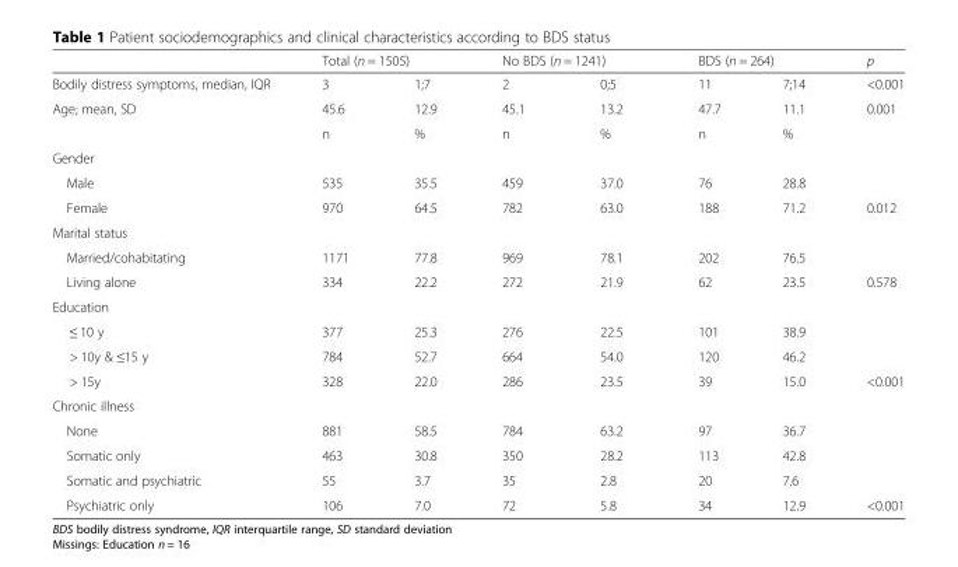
<table><thead><tr><td rowspan="2">Bodily distress symptoms, median, IQR</td><td colspan="2">Total (n = 1505)</td><td colspan="2">No BDS (n = 1241)</td><td colspan="2">BDS (n = 264)</td><td rowspan="2">p &lt;0.001</td></tr><tr><td>3</td><td>1;7</td><td>2</td><td>0;5</td><td>11</td><td>7;14</td></tr></thead><tbody><tr><td rowspan="2">Age; mean, SD</td><td>45.6</td><td>12.9</td><td>45.1</td><td>13.2</td><td>47.7</td><td>11.1</td><td>0.001</td></tr><tr><td>n</td><td>%</td><td>n</td><td>%</td><td>n</td><td>%</td><td></td></tr><tr><td colspan="8">Gender</td></tr><tr><td>Male</td><td>535</td><td>35.5</td><td>459</td><td>37.0</td><td>76</td><td>28.8</td><td></td></tr><tr><td>Female</td><td>970</td><td>64.5</td><td>782</td><td>63.0</td><td>188</td><td>71.2</td><td>0.012</td></tr><tr><td colspan="8">Marital status</td></tr><tr><td>Married/cohabitating</td><td>1171</td><td>77.8</td><td>969</td><td>78.1</td><td>202</td><td>76.5</td><td></td></tr><tr><td>Living alone</td><td>334</td><td>22.2</td><td>272</td><td>21.9</td><td>62</td><td>23.5</td><td>0.578</td></tr><tr><td colspan="8">Education</td></tr><tr><td>≤ 10 y</td><td>377</td><td>25.3</td><td>276</td><td>22.5</td><td>101</td><td>38.9</td><td></td></tr><tr><td>&gt; 10y &amp; ≤15 y</td><td>784</td><td>52.7</td><td>664</td><td>54.0</td><td>120</td><td>46.2</td><td></td></tr><tr><td>&gt; 15y</td><td>328</td><td>22.0</td><td>286</td><td>23.5</td><td>39</td><td>15.0</td><td>&lt;0.001</td></tr><tr><td colspan="8">Chronic illness</td></tr><tr><td>None</td><td>881</td><td>58.5</td><td>784</td><td>63.2</td><td>97</td><td>36.7</td><td></td></tr><tr><td>Somatic only</td><td>463</td><td>30.8</td><td>350</td><td>28.2</td><td>113</td><td>42.8</td><td></td></tr><tr><td>Somatic and psychiatric</td><td>55</td><td>3.7</td><td>35</td><td>2.8</td><td>20</td><td>7.6</td><td></td></tr><tr><td>Psychiatric only</td><td>106</td><td>7.0</td><td>72</td><td>5.8</td><td>34</td><td>12.9</td><td>&lt;0.001</td></tr></tbody></table>